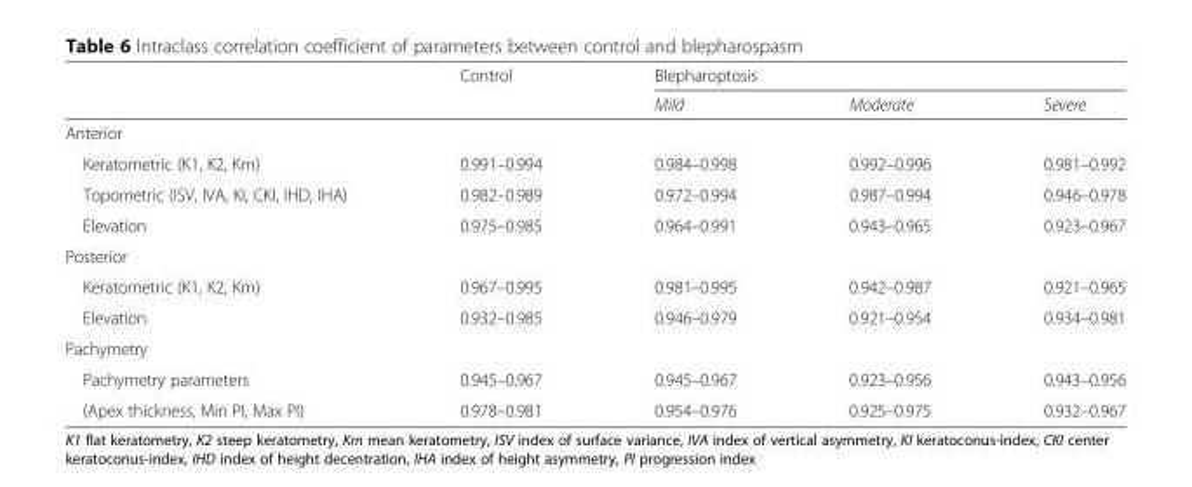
<table><thead><tr><td rowspan="2"></td><td rowspan="2">Control</td><td colspan="3">Blepharoptosis</td></tr><tr><td>Mild</td><td>Moderate</td><td>Severe</td></tr></thead><tbody><tr><td colspan="5">Anterior</td></tr><tr><td>Keratometric (K1, K2, Km)</td><td>0.991–0.994</td><td>0.984–0.998</td><td>0.992–0.996</td><td>0.981–0.992</td></tr><tr><td>Topometric (ISV, IVA, KI, CKI, IHD, IHA)</td><td>0.982–0.989</td><td>0.972–0.994</td><td>0.987–0.994</td><td>0.946–0.978</td></tr><tr><td>Elevation</td><td>0.975–0.985</td><td>0.964–0.991</td><td>0.943–0.965</td><td>0.923–0.967</td></tr><tr><td colspan="5">Posterior</td></tr><tr><td>Keratometric (K1, K2, Km)</td><td>0.967–0.995</td><td>0.981–0.995</td><td>0.942–0.987</td><td>0.921–0.965</td></tr><tr><td>Elevation</td><td>0.932–0.985</td><td>0.946–0.979</td><td>0.921–0.954</td><td>0.934–0.981</td></tr><tr><td colspan="5">Pachymetry</td></tr><tr><td>Pachymetry parameters</td><td>0.945–0.967</td><td>0.945–0.967</td><td>0.923–0.956</td><td>0.943–0.956</td></tr><tr><td>(Apex thickness, Min PI, Max PI)</td><td>0.978–0.981</td><td>0.954–0.976</td><td>0.925–0.975</td><td>0.932–0.967</td></tr></tbody></table>